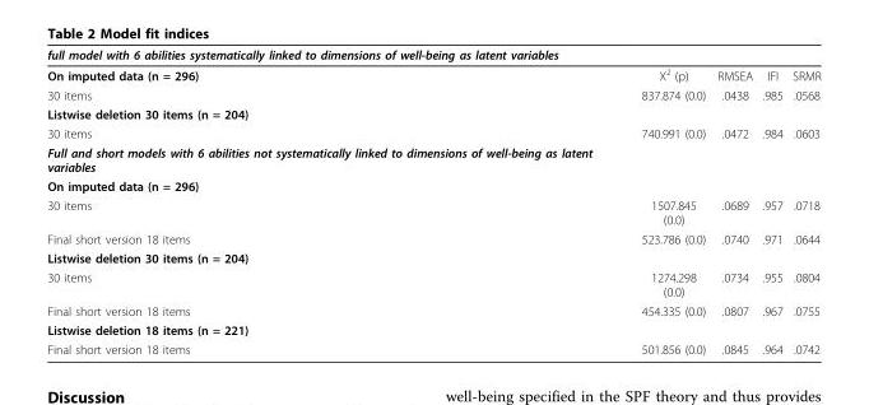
<table><thead><tr><td>full model with 6 abilities systematically linked to dimensions of well-being as latent variables</td><td></td><td></td><td></td><td></td></tr></thead><tbody><tr><td>On imputed data (n = 296)</td><td>Χ<sup>2</sup> (p)</td><td>RMSEA</td><td>IFI</td><td>SRMR</td></tr><tr><td>30 items</td><td>837.874 (0.0)</td><td>.0438</td><td>.985</td><td>.0568</td></tr><tr><td colspan="5">Listwise deletion 30 items (n = 204)</td></tr><tr><td>30 items</td><td>740.991 (0.0)</td><td>.0472</td><td>.984</td><td>.0603</td></tr><tr><td colspan="5">Full and short models with 6 abilities not systematically linked to dimensions of well-being as latent variables</td></tr><tr><td colspan="5">On imputed data (n = 296)</td></tr><tr><td>30 items</td><td>1507.845 (0.0)</td><td>.0689</td><td>.957</td><td>.0718</td></tr><tr><td>Final short version 18 items</td><td>523.786 (0.0)</td><td>.0740</td><td>.971</td><td>.0644</td></tr><tr><td colspan="5">Listwise deletion 30 items (n = 204)</td></tr><tr><td>30 items</td><td>1274.298 (0.0)</td><td>.0734</td><td>.955</td><td>.0804</td></tr><tr><td>Final short version 18 items</td><td>454.335 (0.0)</td><td>.0807</td><td>.967</td><td>.0755</td></tr><tr><td colspan="5">Listwise deletion 18 items (n = 221)</td></tr><tr><td>Final short version 18 items</td><td>501.856 (0.0)</td><td>.0845</td><td>.964</td><td>.0742</td></tr></tbody></table>